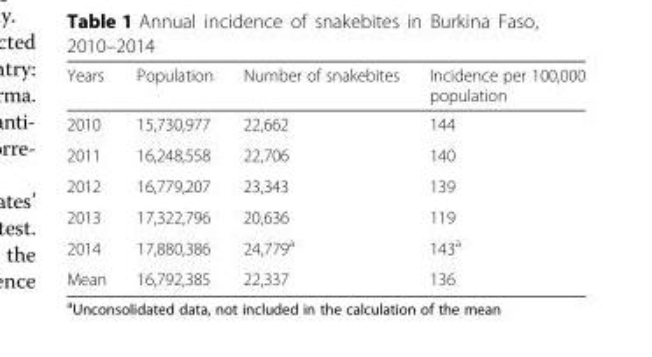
<table><thead><tr><td>Years</td><td>Population</td><td>Number of snakebites</td><td>Incidence per 100,000 population</td></tr></thead><tbody><tr><td>2010</td><td>15,730,977</td><td>22,662</td><td>144</td></tr><tr><td>2011</td><td>16,248,558</td><td>22,706</td><td>140</td></tr><tr><td>2012</td><td>16,779,207</td><td>23,343</td><td>139</td></tr><tr><td>2013</td><td>17,322,796</td><td>20,636</td><td>119</td></tr><tr><td>2014</td><td>17,880,386</td><td>24,779<sup>a</sup></td><td>143<sup>a</sup></td></tr><tr><td>Mean</td><td>16,792,385</td><td>22,337</td><td>136</td></tr></tbody></table>